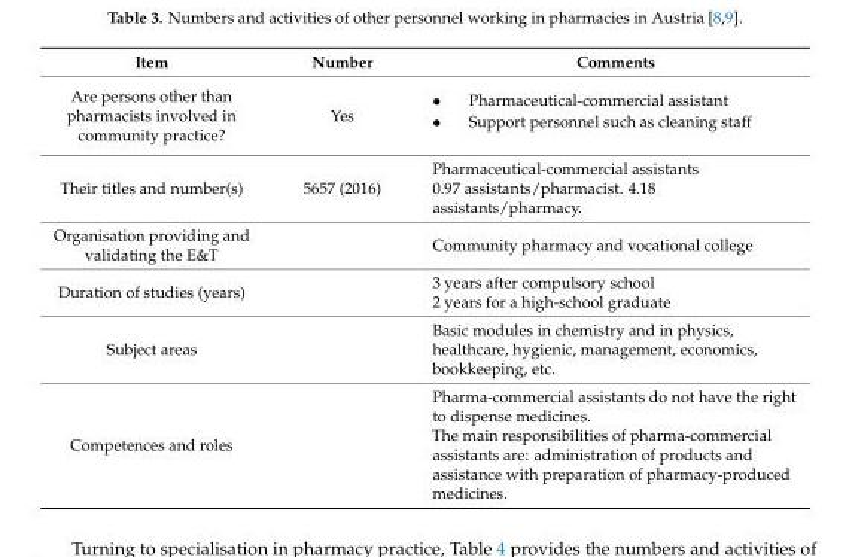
<table><thead><tr><td>Item</td><td>Number</td><td>Comments</td></tr></thead><tbody><tr><td>Are persons other than pharmacists involved in community practice?</td><td>Yes</td><td>• Pharmaceutical-commercial assistant • Support personnel such as cleaning staff</td></tr><tr><td>Their titles and number(s)</td><td>5657 (2016)</td><td>Pharmaceutical-commercial assistants 0.97 assistants/pharmacist. 4.18 assistants/pharmacy.</td></tr><tr><td>Organisation providing and validating the E&amp;T</td><td></td><td>Community pharmacy and vocational college</td></tr><tr><td>Duration of studies (years)</td><td></td><td>3 years after compulsory school 2 years for a high-school graduate</td></tr><tr><td>Subject areas</td><td></td><td>Basic modules in chemistry and in physics, healthcare, hygienic, management, economics, bookkeeping, etc.</td></tr><tr><td>Competences and roles</td><td></td><td>Pharma-commercial assistants do not have the right to dispense medicines. The main responsibilities of pharma-commercial assistants are: administration of products and assistance with preparation of pharmacy-produced medicines.</td></tr></tbody></table>